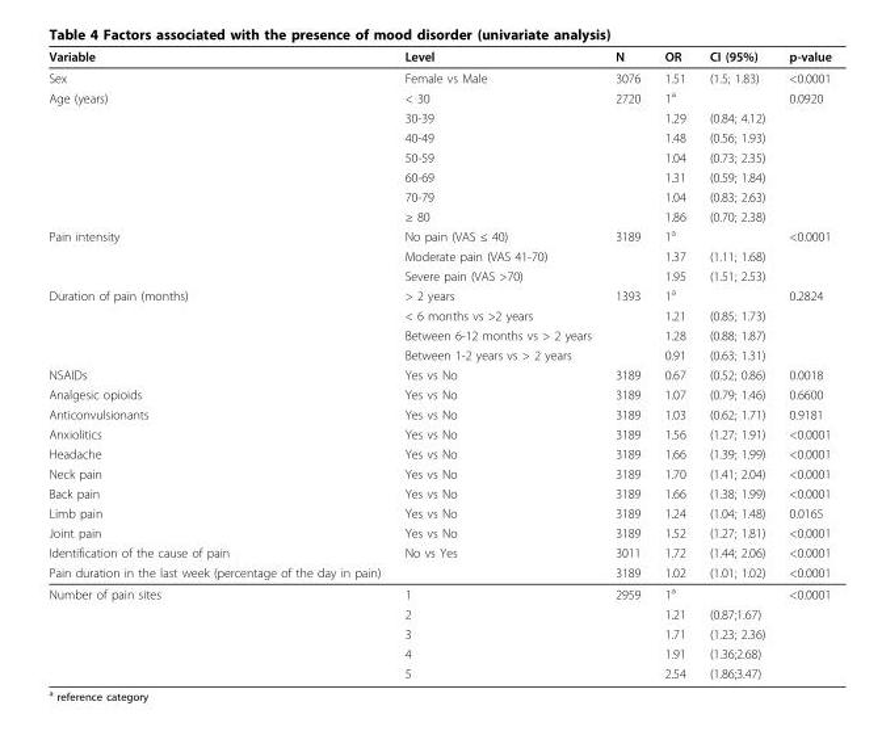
<table><thead><tr><td>Variable</td><td>Level</td><td>N</td><td>OR</td><td>CI (95%)</td><td>p-value</td></tr></thead><tbody><tr><td>Sex</td><td>Female vs Male</td><td>3076</td><td>1.51</td><td>(1.5; 1.83)</td><td>&lt;0.0001</td></tr><tr><td rowspan="7">Age (years)</td><td>&lt; 30</td><td>2720</td><td>1<sup>a</sup></td><td></td><td>0.0920</td></tr><tr><td>30-39</td><td></td><td>1.29</td><td>(0.84; 4.12)</td><td></td></tr><tr><td>40-49</td><td></td><td>1.48</td><td>(0.56; 1.93)</td><td></td></tr><tr><td>50-59</td><td></td><td>1.04</td><td>(0.73; 2.35)</td><td></td></tr><tr><td>60-69</td><td></td><td>1.31</td><td>(0.59; 1.84)</td><td></td></tr><tr><td>70-79</td><td></td><td>1.04</td><td>(0.83; 2.63)</td><td></td></tr><tr><td>≥ 80</td><td></td><td>1.86</td><td>(0.70; 2.38)</td><td></td></tr><tr><td rowspan="3">Pain intensity</td><td>No pain (VAS ≤ 40)</td><td>3189</td><td>1<sup>a</sup></td><td></td><td>&lt;0.0001</td></tr><tr><td>Moderate pain (VAS 41-70)</td><td></td><td>1.37</td><td>(1.11; 1.68)</td><td></td></tr><tr><td>Severe pain (VAS &gt;70)</td><td></td><td>1.95</td><td>(1.51; 2.53)</td><td></td></tr><tr><td rowspan="4">Duration of pain (months)</td><td>&gt; 2 years</td><td>1393</td><td>1<sup>a</sup></td><td></td><td>0.2824</td></tr><tr><td>&lt; 6 months vs &gt;2 years</td><td></td><td>1.21</td><td>(0.85; 1.73)</td><td></td></tr><tr><td>Between 6-12 months vs &gt; 2 years</td><td></td><td>1.28</td><td>(0.88; 1.87)</td><td></td></tr><tr><td>Between 1-2 years vs &gt; 2 years</td><td></td><td>0.91</td><td>(0.63; 1.31)</td><td></td></tr><tr><td>NSAIDs</td><td>Yes vs No</td><td>3189</td><td>0.67</td><td>(0.52; 0.86)</td><td>0.0018</td></tr><tr><td>Analgesic opioids</td><td>Yes vs No</td><td>3189</td><td>1.07</td><td>(0.79; 1.46)</td><td>0.6600</td></tr><tr><td>Anticonvulsionants</td><td>Yes vs No</td><td>3189</td><td>1.03</td><td>(0.62; 1.71)</td><td>0.9181</td></tr><tr><td>Anxiolitics</td><td>Yes vs No</td><td>3189</td><td>1.56</td><td>(1.27; 1.91)</td><td>&lt;0.0001</td></tr><tr><td>Headache</td><td>Yes vs No</td><td>3189</td><td>1.66</td><td>(1.39; 1.99)</td><td>&lt;0.0001</td></tr><tr><td>Neck pain</td><td>Yes vs No</td><td>3189</td><td>1.70</td><td>(1.41; 2.04)</td><td>&lt;0.0001</td></tr><tr><td>Back pain</td><td>Yes vs No</td><td>3189</td><td>1.66</td><td>(1.38; 1.99)</td><td>&lt;0.0001</td></tr><tr><td>Limb pain</td><td>Yes vs No</td><td>3189</td><td>1.24</td><td>(1.04; 1.48)</td><td>0.0165</td></tr><tr><td>Joint pain</td><td>Yes vs No</td><td>3189</td><td>1.52</td><td>(1.27; 1.81)</td><td>&lt;0.0001</td></tr><tr><td>Identification of the cause of pain</td><td>No vs Yes</td><td>3011</td><td>1.72</td><td>(1.44; 2.06)</td><td>&lt;0.0001</td></tr><tr><td>Pain duration in the last week (percentage of the day in pain)</td><td></td><td>3189</td><td>1.02</td><td>(1.01; 1.02)</td><td>&lt;0.0001</td></tr><tr><td rowspan="5">Number of pain sites</td><td>1</td><td>2959</td><td>1<sup>a</sup></td><td></td><td>&lt;0.0001</td></tr><tr><td>2</td><td></td><td>1.21</td><td>(0.87;1.67)</td><td></td></tr><tr><td>3</td><td></td><td>1.71</td><td>(1.23; 2.36)</td><td></td></tr><tr><td>4</td><td></td><td>1.91</td><td>(1.36;2.68)</td><td></td></tr><tr><td>5</td><td></td><td>2.54</td><td>(1.86;3.47)</td><td></td></tr></tbody></table>